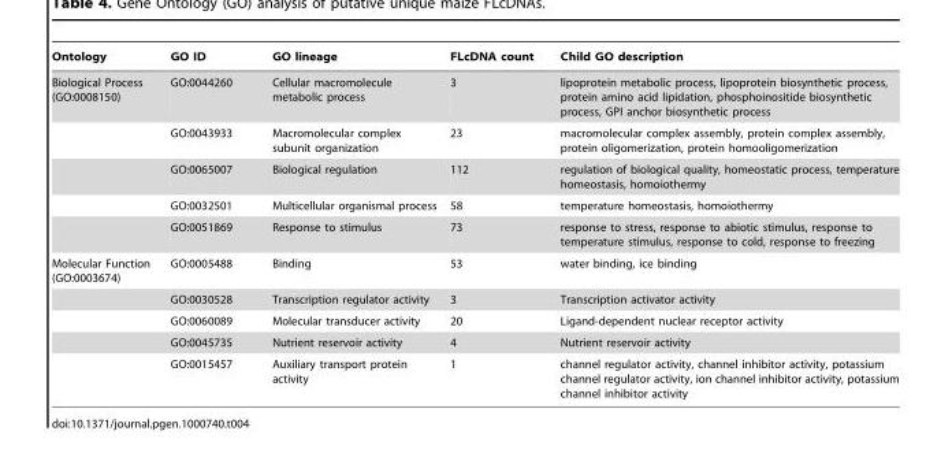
<table><thead><tr><td>Ontology</td><td>GO ID</td><td>GO lineage</td><td>FLcDNA count</td><td>Child GO description</td></tr></thead><tbody><tr><td rowspan="5">Biological Process (GO:0008150)</td><td>GO:0044260</td><td>Cellular macromolecule metabolic process</td><td>3</td><td>lipoprotein metabolic process, lipoprotein biosynthetic process, protein amino acid lipidation, phosphoinositide biosynthetic process, GPI anchor biosynthetic process</td></tr><tr><td>GO:0043933</td><td>Macromolecular complex subunit organization</td><td>23</td><td>macromolecular complex assembly, protein complex assembly, protein oligomerization, protein homooligomerization</td></tr><tr><td>GO:0065007</td><td>Biological regulation</td><td>112</td><td>regulation of biological quality, homeostatic process, temperature homeostasis, homoiothermy</td></tr><tr><td>GO:0032501</td><td>Multicellular organismal process</td><td>58</td><td>temperature homeostasis, homoiothermy</td></tr><tr><td>GO:0051869</td><td>Response to stimulus</td><td>73</td><td>response to stress, response to abiotic stimulus, response to temperature stimulus, response to cold, response to freezing</td></tr><tr><td rowspan="5">Molecular Function (GO:0003674)</td><td>GO:0005488</td><td>Binding</td><td>53</td><td>water binding, ice binding</td></tr><tr><td>GO:0030528</td><td>Transcription regulator activity</td><td>3</td><td>Transcription activator activity</td></tr><tr><td>GO:0060089</td><td>Molecular transducer activity</td><td>20</td><td>Ligand-dependent nuclear receptor activity</td></tr><tr><td>GO:0045735</td><td>Nutrient reservoir activity</td><td>4</td><td>Nutrient reservoir activity</td></tr><tr><td>GO:0015457</td><td>Auxiliary transport protein activity</td><td>1</td><td>channel regulator activity, channel inhibitor activity, potassium channel regulator activity, ion channel inhibitor activity, potassium channel inhibitor activity</td></tr></tbody></table>